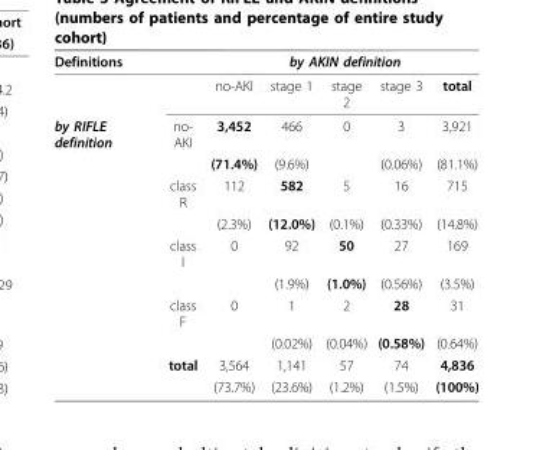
<table><thead><tr><td rowspan="2">Definitions</td><td rowspan="2"></td><td colspan="5">by AKIN definition</td></tr><tr><td>no-AKI</td><td>stage 1</td><td>stage 2</td><td>stage 3</td><td>total</td></tr></thead><tbody><tr><td rowspan="10">by RIFLE definition</td><td>no- AKI</td><td>3,452</td><td>466</td><td>0</td><td>3</td><td>3,921</td></tr><tr><td></td><td>(71.4%)</td><td>(9.6%)</td><td></td><td>(0.06%)</td><td>(81.1%)</td></tr><tr><td>class R</td><td>112</td><td>582</td><td>5</td><td>16</td><td>715</td></tr><tr><td></td><td>(2.3%)</td><td>(12.0%)</td><td>(0.1%)</td><td>(0.33%)</td><td>(14.8%)</td></tr><tr><td>class I</td><td>0</td><td>92</td><td>50</td><td>27</td><td>169</td></tr><tr><td></td><td></td><td>(1.9%)</td><td>(1.0%)</td><td>(0.56%)</td><td>(3.5%)</td></tr><tr><td>class F</td><td>0</td><td>1</td><td>2</td><td>28</td><td>31</td></tr><tr><td></td><td></td><td>(0.02%)</td><td>(0.04%)</td><td>(0.58%)</td><td>(0.64%)</td></tr><tr><td>total</td><td>3,564</td><td>1,141</td><td>57</td><td>74</td><td>4,836</td></tr><tr><td></td><td>(73.7%)</td><td>(23.6%)</td><td>(1.2%)</td><td>(1.5%)</td><td>(100%)</td></tr></tbody></table>